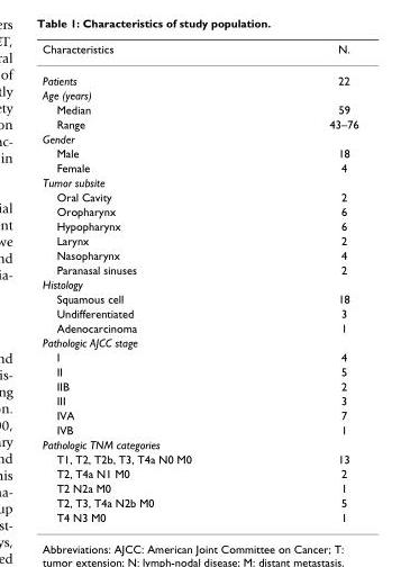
<table><thead><tr><td>Characteristics</td><td>N.</td></tr></thead><tbody><tr><td>Patients</td><td>22</td></tr><tr><td colspan="2">Age (years)</td></tr><tr><td>Median</td><td>59</td></tr><tr><td>Range</td><td>43–76</td></tr><tr><td colspan="2">Gender</td></tr><tr><td>Male</td><td>18</td></tr><tr><td>Female</td><td>4</td></tr><tr><td colspan="2">Tumor subsite</td></tr><tr><td>Oral Cavity</td><td>2</td></tr><tr><td>Oropharynx</td><td>6</td></tr><tr><td>Hypopharynx</td><td>6</td></tr><tr><td>Larynx</td><td>2</td></tr><tr><td>Nasopharynx</td><td>4</td></tr><tr><td>Paranasal sinuses</td><td>2</td></tr><tr><td colspan="2">Histology</td></tr><tr><td>Squamous cell</td><td>18</td></tr><tr><td>Undifferentiated</td><td>3</td></tr><tr><td>Adenocarcinoma</td><td>1</td></tr><tr><td colspan="2">Pathologic AJCC stage</td></tr><tr><td>I</td><td>4</td></tr><tr><td>II</td><td>5</td></tr><tr><td>IIB</td><td>2</td></tr><tr><td>III</td><td>3</td></tr><tr><td>IVA</td><td>7</td></tr><tr><td>IVB</td><td>1</td></tr><tr><td colspan="2">Pathologic TNM categories</td></tr><tr><td>T1, T2, T2b, T3, T4a N0 M0</td><td>13</td></tr><tr><td>T2, T4a N1 M0</td><td>2</td></tr><tr><td>T2 N2a M0</td><td>1</td></tr><tr><td>T2, T3, T4a N2b M0</td><td>5</td></tr><tr><td>T4 N3 M0</td><td>1</td></tr></tbody></table>